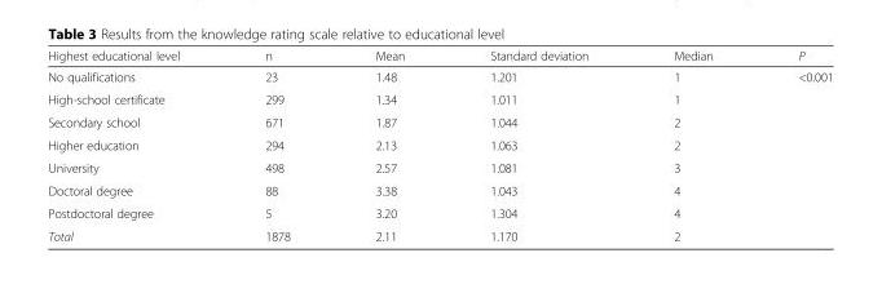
<table><thead><tr><td>Highest educational level</td><td>n</td><td>Mean</td><td>Standard deviation</td><td>Median</td><td>P</td></tr></thead><tbody><tr><td>No qualifications</td><td>23</td><td>1.48</td><td>1.201</td><td>1</td><td>&lt;0.001</td></tr><tr><td>High-school certificate</td><td>299</td><td>1.34</td><td>1.011</td><td>1</td><td></td></tr><tr><td>Secondary school</td><td>671</td><td>1.87</td><td>1.044</td><td>2</td><td></td></tr><tr><td>Higher education</td><td>294</td><td>2.13</td><td>1.063</td><td>2</td><td></td></tr><tr><td>University</td><td>498</td><td>2.57</td><td>1.081</td><td>3</td><td></td></tr><tr><td>Doctoral degree</td><td>88</td><td>3.38</td><td>1.043</td><td>4</td><td></td></tr><tr><td>Postdoctoral degree</td><td>5</td><td>3.20</td><td>1.304</td><td>4</td><td></td></tr><tr><td>Total</td><td>1878</td><td>2.11</td><td>1.170</td><td>2</td><td></td></tr></tbody></table>